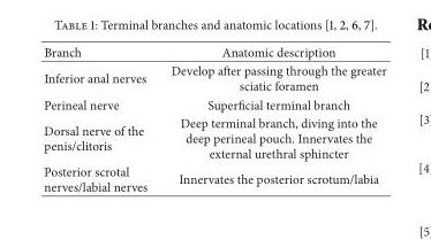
<table><thead><tr><td>Branch</td><td>Anatomic description</td></tr></thead><tbody><tr><td>Inferior anal nerves</td><td>Develop after passing through the greater sciatic foramen</td></tr><tr><td>Perineal nerve</td><td>Superficial terminal branch</td></tr><tr><td>Dorsal nerve of the penis/clitoris</td><td>Deep terminal branch, diving into the deep perineal pouch. Innervates the external urethral sphincter</td></tr><tr><td>Posterior scrotal nerves/labial nerves</td><td>Innervates the posterior scrotum/labia</td></tr></tbody></table>